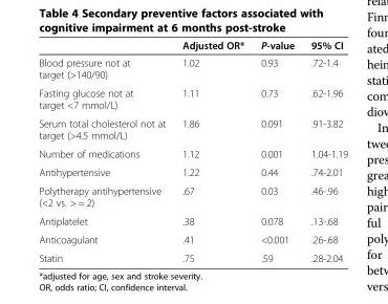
<table><thead><tr><td></td><td>Adjusted OR*</td><td>P-value</td><td>95% CI</td></tr></thead><tbody><tr><td>Blood pressure not at target (&gt;140/90)</td><td>1.02</td><td>0.93</td><td>.72-1.4</td></tr><tr><td>Fasting glucose not at target &lt;7 mmol/L)</td><td>1.11</td><td>0.73</td><td>.62-1.96</td></tr><tr><td>Serum total cholesterol not at target (&gt;4.5 mmol/L)</td><td>1.86</td><td>0.091</td><td>.91-3.82</td></tr><tr><td>Number of medications</td><td>1.12</td><td>0.001</td><td>1.04-1.19</td></tr><tr><td>Antihypertensive</td><td>1.22</td><td>0.44</td><td>.74-2.01</td></tr><tr><td>Polytherapy antihypertensive (&lt;2 vs. &gt; = 2)</td><td>.67</td><td>0.03</td><td>.46-.96</td></tr><tr><td>Antiplatelet</td><td>.38</td><td>0.078</td><td>.13-.68</td></tr><tr><td>Anticoagulant</td><td>.41</td><td>&lt;0.001</td><td>.26-.68</td></tr><tr><td>Statin</td><td>.75</td><td>.59</td><td>.28-2.04</td></tr></tbody></table>